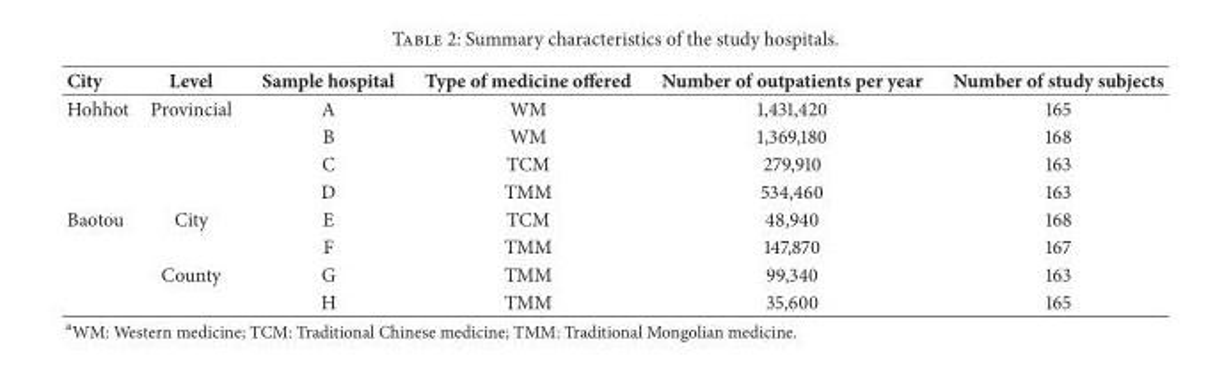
<table><thead><tr><td>City</td><td>Level</td><td>Sample hospital</td><td>Type of medicine offered</td><td>Number of outpatients per year</td><td>Number of study subjects</td></tr></thead><tbody><tr><td rowspan="4">Hohhot</td><td>Provincial</td><td>A</td><td>WM</td><td>1,431,420</td><td>165</td></tr><tr><td></td><td>B</td><td>WM</td><td>1,369,180</td><td>168</td></tr><tr><td></td><td>C</td><td>TCM</td><td>279,910</td><td>163</td></tr><tr><td></td><td>D</td><td>TMM</td><td>534,460</td><td>163</td></tr><tr><td rowspan="4">Baotou</td><td>City</td><td>E</td><td>TCM</td><td>48,940</td><td>168</td></tr><tr><td></td><td>F</td><td>TMM</td><td>147,870</td><td>167</td></tr><tr><td>County</td><td>G</td><td>TMM</td><td>99,340</td><td>163</td></tr><tr><td></td><td>H</td><td>TMM</td><td>35,600</td><td>165</td></tr></tbody></table>